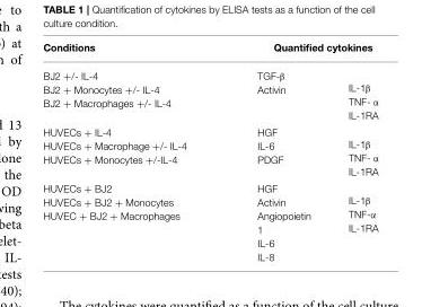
<table><thead><tr><td rowspan="2">Conditions BJ2 +/- IL-4 BJ2 + Monocytes +/- IL-4 BJ2 + Macrophages +/- IL-4</td><td colspan="2">Quantified cytokines</td></tr><tr><td>TGF-β Activin</td><td>IL-1β TNF- α IL-1RA</td></tr></thead><tbody><tr><td>HUVECs + IL-4 HUVECs + Macrophage +/- IL-4 HUVECs + Monocytes +/-IL-4</td><td>HGF IL-6 PDGF</td><td>IL-1β TNF- α IL-1RA</td></tr><tr><td>HUVECs + BJ2 HUVECs + BJ2 + Monocytes HUVEC + BJ2 + Macrophages</td><td>HGF Activin Angiopoietin 1 IL-6 IL-8</td><td>IL-1β TNF-α IL-1RA</td></tr></tbody></table>